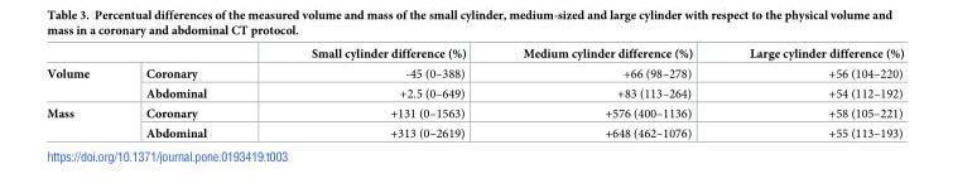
<table><thead><tr><td></td><td></td><td>Small cylinder difference (%)</td><td>Medium cylinder difference (%)</td><td>Large cylinder difference (%)</td></tr></thead><tbody><tr><td rowspan="2">Volume</td><td>Coronary</td><td>-45 (0–388)</td><td>+66 (98–278)</td><td>+56 (104–220)</td></tr><tr><td>Abdominal</td><td>+2.5 (0–649)</td><td>+83 (113–264)</td><td>+54 (112–192)</td></tr><tr><td rowspan="2">Mass</td><td>Coronary</td><td>+131 (0–1563)</td><td>+576 (400–1136)</td><td>+58 (105–221)</td></tr><tr><td>Abdominal</td><td>+313 (0–2619)</td><td>+648 (462–1076)</td><td>+55 (113–193)</td></tr></tbody></table>